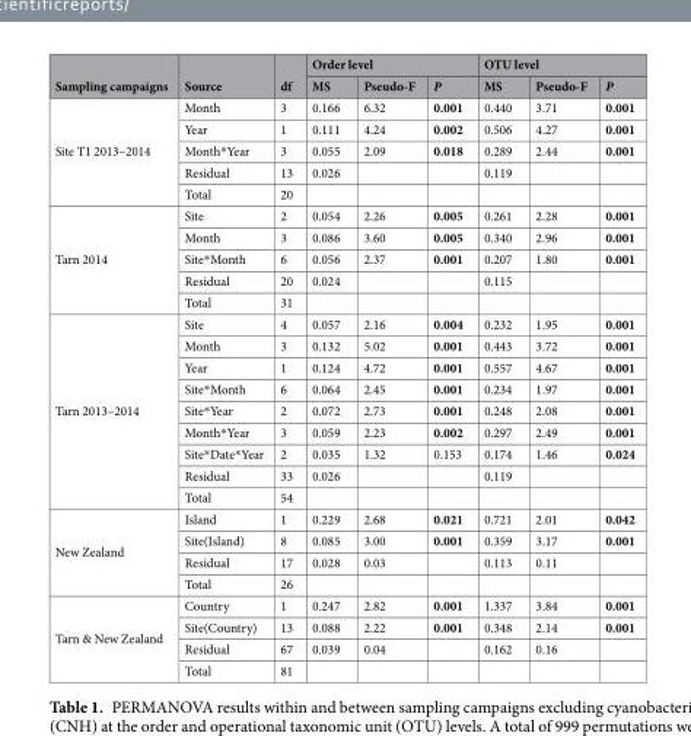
<table><thead><tr><td rowspan="2">Sampling campaigns</td><td rowspan="2">Source</td><td rowspan="2">df</td><td colspan="3">Order level</td><td colspan="3">OTU level</td></tr><tr><td>MS</td><td>Pseudo-F</td><td>P</td><td>MS</td><td>Pseudo-F</td><td>P</td></tr></thead><tbody><tr><td rowspan="5">Site T1 2013–2014</td><td>Month</td><td>3</td><td>0.166</td><td>6.32</td><td>0.001</td><td>0.440</td><td>3.71</td><td>0.001</td></tr><tr><td>Year</td><td>1</td><td>0.111</td><td>4.24</td><td>0.002</td><td>0.506</td><td>4.27</td><td>0.001</td></tr><tr><td>Month*Year</td><td>3</td><td>0.055</td><td>2.09</td><td>0.018</td><td>0.289</td><td>2.44</td><td>0.001</td></tr><tr><td>Residual</td><td>13</td><td>0.026</td><td></td><td></td><td>0.119</td><td></td><td></td></tr><tr><td>Total</td><td>20</td><td></td><td></td><td></td><td></td><td></td><td></td></tr><tr><td rowspan="5">Tarn 2014</td><td>Site</td><td>2</td><td>0.054</td><td>2.26</td><td>0.005</td><td>0.261</td><td>2.28</td><td>0.001</td></tr><tr><td>Month</td><td>3</td><td>0.086</td><td>3.60</td><td>0.005</td><td>0.340</td><td>2.96</td><td>0.001</td></tr><tr><td>Site*Month</td><td>6</td><td>0.056</td><td>2.37</td><td>0.001</td><td>0.207</td><td>1.80</td><td>0.001</td></tr><tr><td>Residual</td><td>20</td><td>0.024</td><td></td><td></td><td>0.115</td><td></td><td></td></tr><tr><td>Total</td><td>31</td><td></td><td></td><td></td><td></td><td></td><td></td></tr><tr><td rowspan="9">Tarn 2013–2014</td><td>Site</td><td>4</td><td>0.057</td><td>2.16</td><td>0.004</td><td>0.232</td><td>1.95</td><td>0.001</td></tr><tr><td>Month</td><td>3</td><td>0.132</td><td>5.02</td><td>0.001</td><td>0.443</td><td>3.72</td><td>0.001</td></tr><tr><td>Year</td><td>1</td><td>0.124</td><td>4.72</td><td>0.001</td><td>0.557</td><td>4.67</td><td>0.001</td></tr><tr><td>Site*Month</td><td>6</td><td>0.064</td><td>2.45</td><td>0.001</td><td>0.234</td><td>1.97</td><td>0.001</td></tr><tr><td>Site*Year</td><td>2</td><td>0.072</td><td>2.73</td><td>0.001</td><td>0.248</td><td>2.08</td><td>0.001</td></tr><tr><td>Month*Year</td><td>3</td><td>0.059</td><td>2.23</td><td>0.002</td><td>0.297</td><td>2.49</td><td>0.001</td></tr><tr><td>Site*Date*Year</td><td>2</td><td>0.035</td><td>1.32</td><td>0.153</td><td>0.174</td><td>1.46</td><td>0.024</td></tr><tr><td>Residual</td><td>33</td><td>0.026</td><td></td><td></td><td>0.119</td><td></td><td></td></tr><tr><td>Total</td><td>54</td><td></td><td></td><td></td><td></td><td></td><td></td></tr><tr><td rowspan="4">New Zealand</td><td>Island</td><td>1</td><td>0.229</td><td>2.68</td><td>0.021</td><td>0.721</td><td>2.01</td><td>0.042</td></tr><tr><td>Site(Island)</td><td>8</td><td>0.085</td><td>3.00</td><td>0.001</td><td>0.359</td><td>3.17</td><td>0.001</td></tr><tr><td>Residual</td><td>17</td><td>0.028</td><td>0.03</td><td></td><td>0.113</td><td>0.11</td><td></td></tr><tr><td>Total</td><td>26</td><td></td><td></td><td></td><td></td><td></td><td></td></tr><tr><td rowspan="4">Tarn &amp; New Zealand</td><td>Country</td><td>1</td><td>0.247</td><td>2.82</td><td>0.001</td><td>1.337</td><td>3.84</td><td>0.001</td></tr><tr><td>Site(Country)</td><td>13</td><td>0.088</td><td>2.22</td><td>0.001</td><td>0.348</td><td>2.14</td><td>0.001</td></tr><tr><td>Residual</td><td>67</td><td>0.039</td><td>0.04</td><td></td><td>0.162</td><td>0.16</td><td></td></tr><tr><td>Total</td><td>81</td><td></td><td></td><td></td><td></td><td></td><td></td></tr></tbody></table>